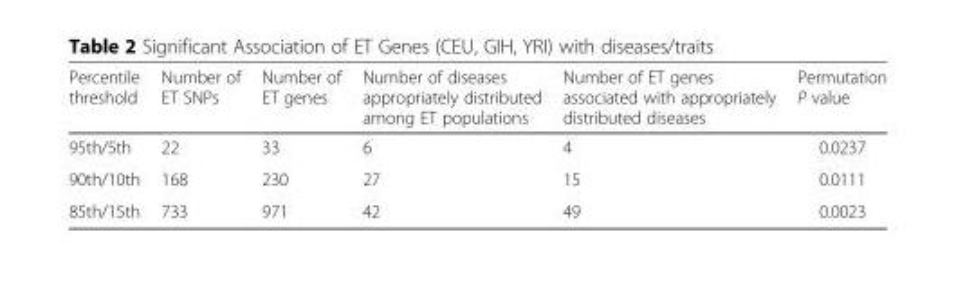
<table><thead><tr><td>Percentile threshold</td><td>Number of ET SNPs</td><td>Number of ET genes</td><td>Number of diseases appropriately distributed among ET populations</td><td>Number of ET genes associated with appropriately distributed diseases</td><td>Permutation P value</td></tr></thead><tbody><tr><td>95th/5th</td><td>22</td><td>33</td><td>6</td><td>4</td><td>0.0237</td></tr><tr><td>90th/10th</td><td>168</td><td>230</td><td>27</td><td>15</td><td>0.0111</td></tr><tr><td>85th/15th</td><td>733</td><td>971</td><td>42</td><td>49</td><td>0.0023</td></tr></tbody></table>